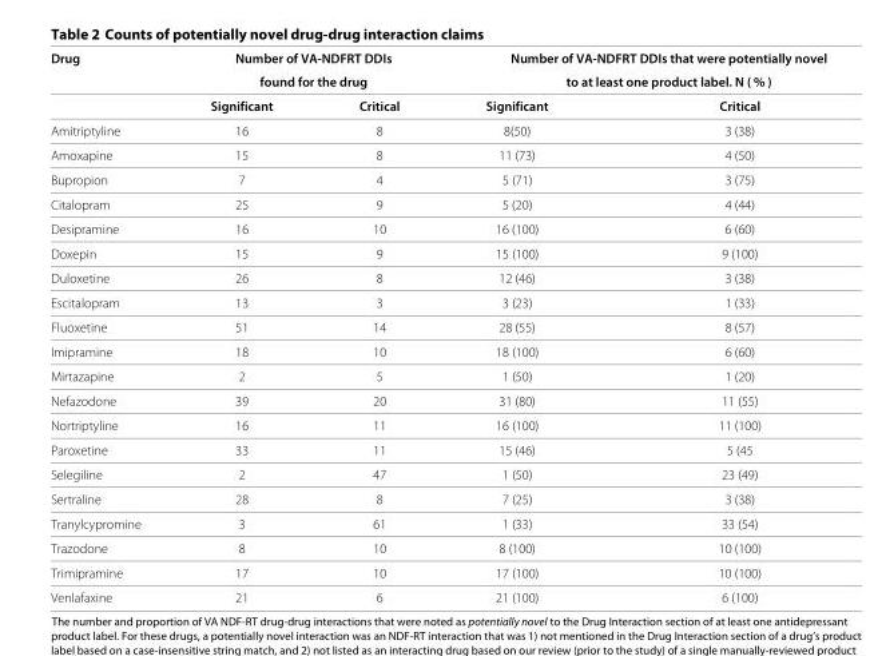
<table><thead><tr><td rowspan="3">Drug</td><td rowspan="2" colspan="2">Number of VA-NDFRT DDIs found for the drug</td><td rowspan="2" colspan="2">Number of VA-NDFRT DDIs that were potentially novel to at least one product label. N ( % )</td></tr><tr></tr><tr><td>Significant</td><td>Critical</td><td>Significant</td><td>Critical</td></tr></thead><tbody><tr><td>Amitriptyline</td><td>16</td><td>8</td><td>8(50)</td><td>3 (38)</td></tr><tr><td>Amoxapine</td><td>15</td><td>8</td><td>11 (73)</td><td>4 (50)</td></tr><tr><td>Bupropion</td><td>7</td><td>4</td><td>5 (71)</td><td>3 (75)</td></tr><tr><td>Citalopram</td><td>25</td><td>9</td><td>5 (20)</td><td>4 (44)</td></tr><tr><td>Desipramine</td><td>16</td><td>10</td><td>16 (100)</td><td>6 (60)</td></tr><tr><td>Doxepin</td><td>15</td><td>9</td><td>15 (100)</td><td>9 (100)</td></tr><tr><td>Duloxetine</td><td>26</td><td>8</td><td>12 (46)</td><td>3 (38)</td></tr><tr><td>Escitalopram</td><td>13</td><td>3</td><td>3 (23)</td><td>1 (33)</td></tr><tr><td>Fluoxetine</td><td>51</td><td>14</td><td>28 (55)</td><td>8 (57)</td></tr><tr><td>Imipramine</td><td>18</td><td>10</td><td>18 (100)</td><td>6 (60)</td></tr><tr><td>Mirtazapine</td><td>2</td><td>5</td><td>1 (50)</td><td>1 (20)</td></tr><tr><td>Nefazodone</td><td>39</td><td>20</td><td>31 (80)</td><td>11 (55)</td></tr><tr><td>Nortriptyline</td><td>16</td><td>11</td><td>16 (100)</td><td>11 (100)</td></tr><tr><td>Paroxetine</td><td>33</td><td>11</td><td>15 (46)</td><td>5 (45</td></tr><tr><td>Selegiline</td><td>2</td><td>47</td><td>1 (50)</td><td>23 (49)</td></tr><tr><td>Sertraline</td><td>28</td><td>8</td><td>7 (25)</td><td>3 (38)</td></tr><tr><td>Tranylcypromine</td><td>3</td><td>61</td><td>1 (33)</td><td>33 (54)</td></tr><tr><td>Trazodone</td><td>8</td><td>10</td><td>8 (100)</td><td>10 (100)</td></tr><tr><td>Trimipramine</td><td>17</td><td>10</td><td>17 (100)</td><td>10 (100)</td></tr><tr><td>Venlafaxine</td><td>21</td><td>6</td><td>21 (100)</td><td>6 (100)</td></tr></tbody></table>